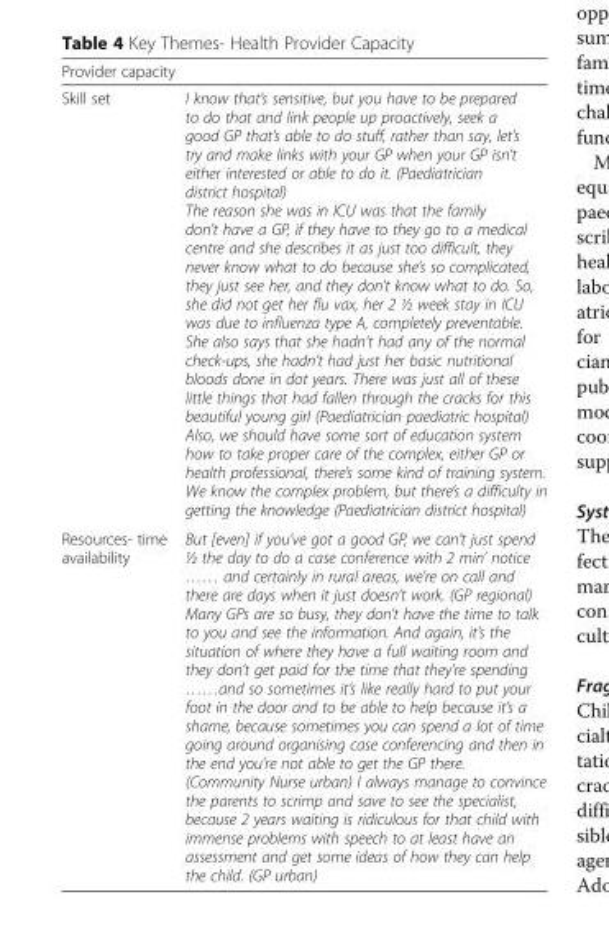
<table><thead><tr><td colspan="2">Provider capacity</td></tr><tr><td>Skill set</td><td>I know that’s sensitive, but you have to be prepared to do that and link people up proactively, seek a good GP that’s able to do stuff, rather than say, let’s try and make links with your GP when your GP isn’t either interested or able to do it. (Paediatrician district hospital) The reason she was in ICU was that the family don’t have a GP, if they have to they go to a medical centre and she describes it as just too difficult, they never know what to do because she’s so complicated, they just see her, and they don’t know what to do. So, she did not get her flu vax, her 2 ½ week stay in ICU was due to influenza type A, completely preventable. She also says that she hadn’t had any of the normal check-ups, she hadn’t had just her basic nutritional bloods done in dot years. There was just all of these little things that had fallen through the cracks for this beautiful young girl (Paediatrician paediatric hospital) Also, we should have some sort of education system how to take proper care of the complex, either GP or health professional, there’s some kind of training system. We know the complex problem, but there’s a difficulty in getting the knowledge (Paediatrician district hospital)</td></tr></thead><tbody><tr><td>Resources- time availability</td><td>But [even] if you’ve got a good GP, we can’t just spend ½ the day to do a case conference with 2 min’ notice …… and certainly in rural areas, we’re on call and there are days when it just doesn’t work. (GP regional) Many GPs are so busy, they don’t have the time to talk to you and see the information. And again, it’s the situation of where they have a full waiting room and they don’t get paid for the time that they’re spending ……and so sometimes it’s like really hard to put your foot in the door and to be able to help because it’s a shame, because sometimes you can spend a lot of time going around organising case conferencing and then in the end you’re not able to get the GP there. (Community Nurse urban) I always manage to convince the parents to scrimp and save to see the specialist, because 2 years waiting is ridiculous for that child with immense problems with speech to at least have an assessment and get some ideas of how they can help the child. (GP urban)</td></tr></tbody></table>